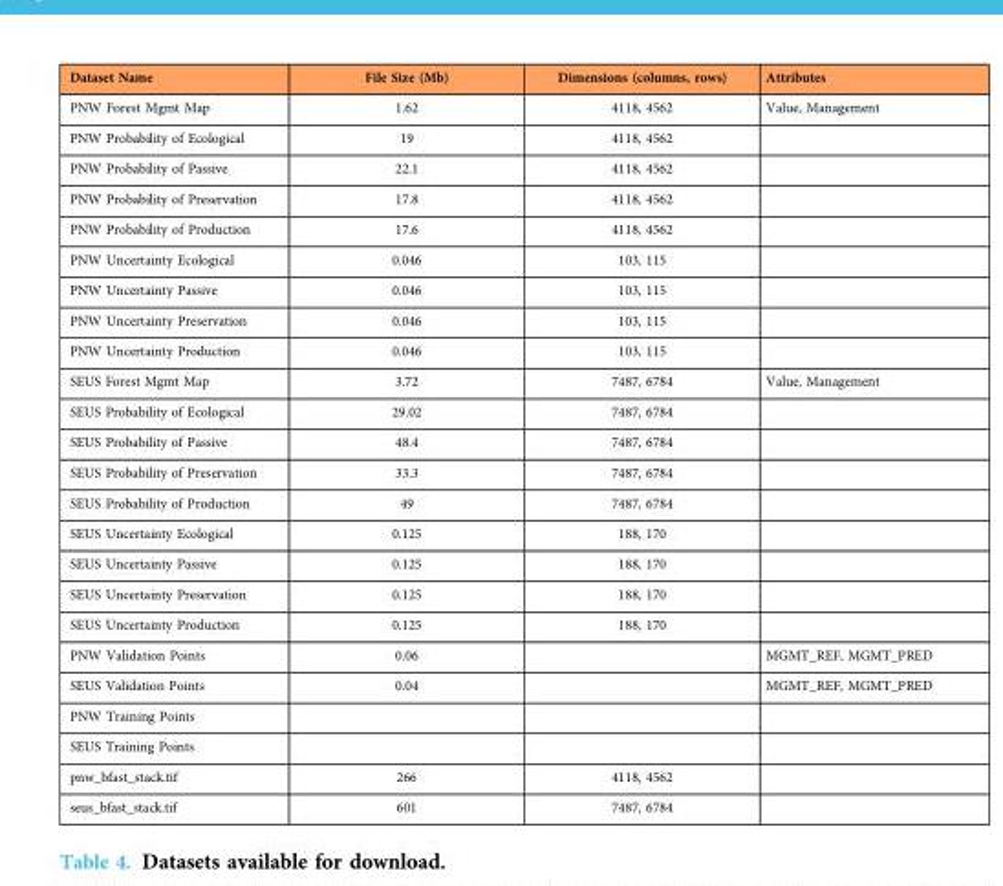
<table><thead><tr><td>Dataset Name</td><td>File Size (Mb)</td><td>Dimensions (columns, rows)</td><td>Attributes</td></tr></thead><tbody><tr><td>PNW Forest Mgmt Map</td><td>1.62</td><td>4118, 4562</td><td>Value, Management</td></tr><tr><td>PNW Probability of Ecological</td><td>19</td><td>4118, 4562</td><td></td></tr><tr><td>PNW Probability of Passive</td><td>22.1</td><td>4118, 4562</td><td></td></tr><tr><td>PNW Probability of Preservation</td><td>17.8</td><td>4118, 4562</td><td></td></tr><tr><td>PNW Probability of Production</td><td>17.6</td><td>4118, 4562</td><td></td></tr><tr><td>PNW Uncertainty Ecological</td><td>0.046</td><td>103, 115</td><td></td></tr><tr><td>PNW Uncertainty Passive</td><td>0.046</td><td>103, 115</td><td></td></tr><tr><td>PNW Uncertainty Preservation</td><td>0.046</td><td>103, 115</td><td></td></tr><tr><td>PNW Uncertainty Production</td><td>0.046</td><td>103, 115</td><td></td></tr><tr><td>SEUS Forest Mgmt Map</td><td>3.72</td><td>7487, 6784</td><td>Value, Management</td></tr><tr><td>SEUS Probability of Ecological</td><td>29.02</td><td>7487, 6784</td><td></td></tr><tr><td>SEUS Probability of Passive</td><td>48.4</td><td>7487, 6784</td><td></td></tr><tr><td>SEUS Probability of Preservation</td><td>33.3</td><td>7487, 6784</td><td></td></tr><tr><td>SEUS Probability of Production</td><td>49</td><td>7487, 6784</td><td></td></tr><tr><td>SEUS Uncertainty Ecological</td><td>0.125</td><td>188, 170</td><td></td></tr><tr><td>SEUS Uncertainty Passive</td><td>0.125</td><td>188, 170</td><td></td></tr><tr><td>SEUS Uncertainty Preservation</td><td>0.125</td><td>188, 170</td><td></td></tr><tr><td>SEUS Uncertainty Production</td><td>0.125</td><td>188, 170</td><td></td></tr><tr><td>PNW Validation Points</td><td>0.06</td><td></td><td>MGMT_REF, MGMT_PRED</td></tr><tr><td>SEUS Validation Points</td><td>0.04</td><td></td><td>MGMT_REF, MGMT_PRED</td></tr><tr><td colspan="4">PNW Training Points</td></tr><tr><td colspan="4">SEUS Training Points</td></tr><tr><td>pnw_bfast_stack.tif</td><td>266</td><td>4118, 4562</td><td></td></tr><tr><td>seus_bfast_stack.tif</td><td>601</td><td>7487, 6784</td><td></td></tr></tbody></table>